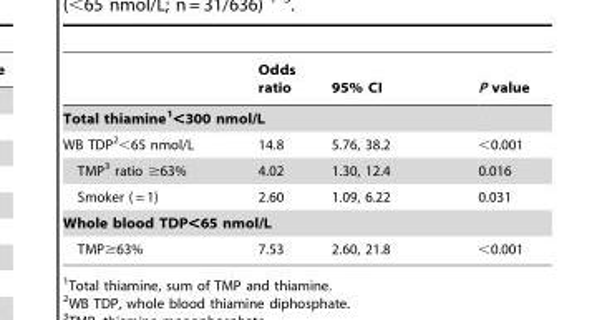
<table><thead><tr><td></td><td>Odds ratio</td><td>95% CI</td><td>P value</td></tr></thead><tbody><tr><td colspan="4">Total thiamine1&lt;300 nmol/L</td></tr><tr><td>WB TDP2&lt;65 nmol/L</td><td>14.8</td><td>5.76, 38.2</td><td>&lt;0.001</td></tr><tr><td>TMP<sup>3</sup> ratio ≥63%</td><td>4.02</td><td>1.30, 12.4</td><td>0.016</td></tr><tr><td>Smoker ( = 1)</td><td>2.60</td><td>1.09, 6.22</td><td>0.031</td></tr><tr><td colspan="4">Whole blood TDP&lt;65 nmol/L</td></tr><tr><td>TMP≥63%</td><td>7.53</td><td>2.60, 21.8</td><td>&lt;0.001</td></tr></tbody></table>